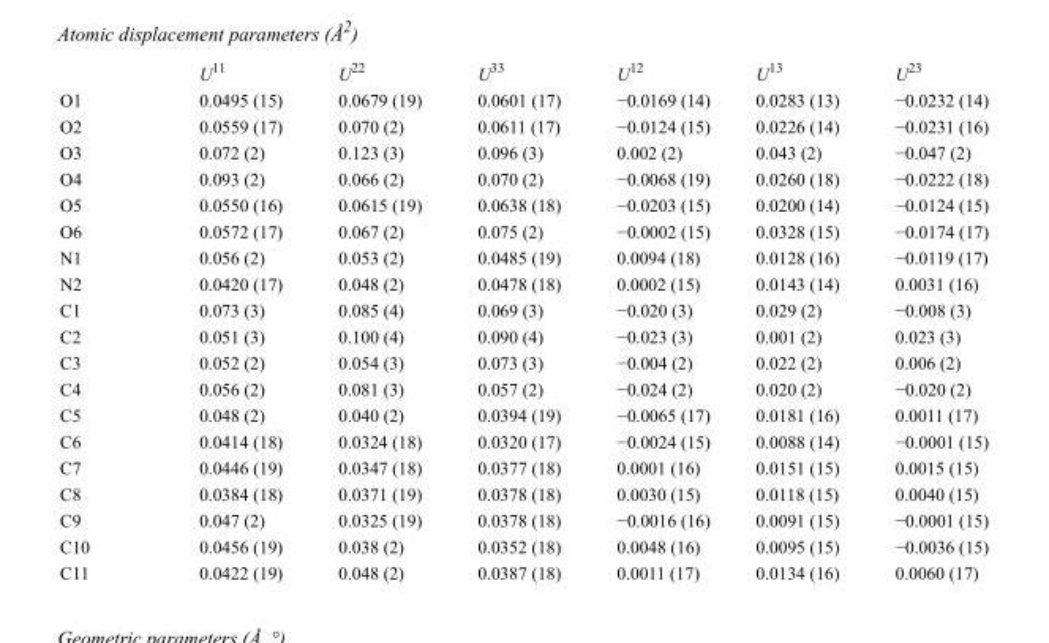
<table><thead><tr><td></td><td>U<sup>11</sup></td><td>U<sup>22</sup></td><td>U<sup>33</sup></td><td>U<sup>12</sup></td><td>U<sup>13</sup></td><td>U<sup>23</sup></td></tr></thead><tbody><tr><td>O1</td><td>0.0495 (15)</td><td>0.0679 (19)</td><td>0.0601 (17)</td><td>−0.0169 (14)</td><td>0.0283 (13)</td><td>−0.0232 (14)</td></tr><tr><td>O2</td><td>0.0559 (17)</td><td>0.070 (2)</td><td>0.0611 (17)</td><td>−0.0124 (15)</td><td>0.0226 (14)</td><td>−0.0231 (16)</td></tr><tr><td>O3</td><td>0.072 (2)</td><td>0.123 (3)</td><td>0.096 (3)</td><td>0.002 (2)</td><td>0.043 (2)</td><td>−0.047 (2)</td></tr><tr><td>O4</td><td>0.093 (2)</td><td>0.066 (2)</td><td>0.070 (2)</td><td>−0.0068 (19)</td><td>0.0260 (18)</td><td>−0.0222 (18)</td></tr><tr><td>O5</td><td>0.0550 (16)</td><td>0.0615 (19)</td><td>0.0638 (18)</td><td>−0.0203 (15)</td><td>0.0200 (14)</td><td>−0.0124 (15)</td></tr><tr><td>O6</td><td>0.0572 (17)</td><td>0.067 (2)</td><td>0.075 (2)</td><td>−0.0002 (15)</td><td>0.0328 (15)</td><td>−0.0174 (17)</td></tr><tr><td>N1</td><td>0.056 (2)</td><td>0.053 (2)</td><td>0.0485 (19)</td><td>0.0094 (18)</td><td>0.0128 (16)</td><td>−0.0119 (17)</td></tr><tr><td>N2</td><td>0.0420 (17)</td><td>0.048 (2)</td><td>0.0478 (18)</td><td>0.0002 (15)</td><td>0.0143 (14)</td><td>0.0031 (16)</td></tr><tr><td>C1</td><td>0.073 (3)</td><td>0.085 (4)</td><td>0.069 (3)</td><td>−0.020 (3)</td><td>0.029 (2)</td><td>−0.008 (3)</td></tr><tr><td>C2</td><td>0.051 (3)</td><td>0.100 (4)</td><td>0.090 (4)</td><td>−0.023 (3)</td><td>0.001 (2)</td><td>0.023 (3)</td></tr><tr><td>C3</td><td>0.052 (2)</td><td>0.054 (3)</td><td>0.073 (3)</td><td>−0.004 (2)</td><td>0.022 (2)</td><td>0.006 (2)</td></tr><tr><td>C4</td><td>0.056 (2)</td><td>0.081 (3)</td><td>0.057 (2)</td><td>−0.024 (2)</td><td>0.020 (2)</td><td>−0.020 (2)</td></tr><tr><td>C5</td><td>0.048 (2)</td><td>0.040 (2)</td><td>0.0394 (19)</td><td>−0.0065 (17)</td><td>0.0181 (16)</td><td>0.0011 (17)</td></tr><tr><td>C6</td><td>0.0414 (18)</td><td>0.0324 (18)</td><td>0.0320 (17)</td><td>−0.0024 (15)</td><td>0.0088 (14)</td><td>−0.0001 (15)</td></tr><tr><td>C7</td><td>0.0446 (19)</td><td>0.0347 (18)</td><td>0.0377 (18)</td><td>0.0001 (16)</td><td>0.0151 (15)</td><td>0.0015 (15)</td></tr><tr><td>C8</td><td>0.0384 (18)</td><td>0.0371 (19)</td><td>0.0378 (18)</td><td>0.0030 (15)</td><td>0.0118 (15)</td><td>0.0040 (15)</td></tr><tr><td>C9</td><td>0.047 (2)</td><td>0.0325 (19)</td><td>0.0378 (18)</td><td>−0.0016 (16)</td><td>0.0091 (15)</td><td>−0.0001 (15)</td></tr><tr><td>C10</td><td>0.0456 (19)</td><td>0.038 (2)</td><td>0.0352 (18)</td><td>0.0048 (16)</td><td>0.0095 (15)</td><td>−0.0036 (15)</td></tr><tr><td>C11</td><td>0.0422 (19)</td><td>0.048 (2)</td><td>0.0387 (18)</td><td>0.0011 (17)</td><td>0.0134 (16)</td><td>0.0060 (17)</td></tr></tbody></table>